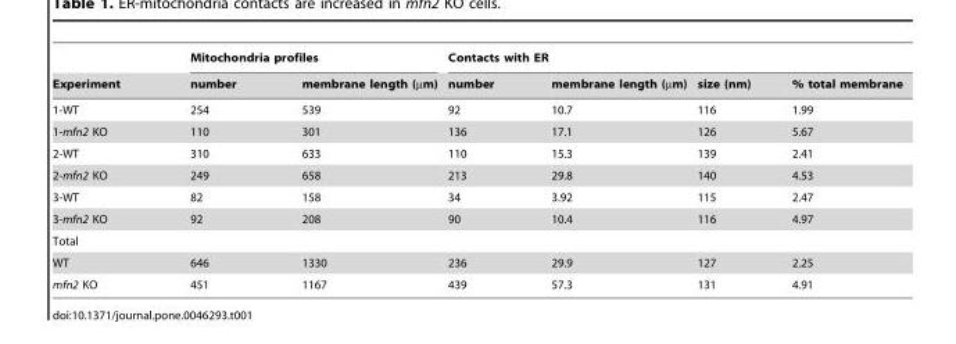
<table><thead><tr><td rowspan="2">Experiment</td><td colspan="2">Mitochondria profiles</td><td colspan="4">Contacts with ER</td></tr><tr><td>number</td><td>membrane length (µm)</td><td>number</td><td>membrane length (µm)</td><td>size (nm)</td><td>% total membrane</td></tr></thead><tbody><tr><td>1-WT</td><td>254</td><td>539</td><td>92</td><td>10.7</td><td>116</td><td>1.99</td></tr><tr><td>1-mfn2 KO</td><td>110</td><td>301</td><td>136</td><td>17.1</td><td>126</td><td>5.67</td></tr><tr><td>2-WT</td><td>310</td><td>633</td><td>110</td><td>15.3</td><td>139</td><td>2.41</td></tr><tr><td>2-mfn2 KO</td><td>249</td><td>658</td><td>213</td><td>29.8</td><td>140</td><td>4.53</td></tr><tr><td>3-WT</td><td>82</td><td>158</td><td>34</td><td>3.92</td><td>115</td><td>2.47</td></tr><tr><td>3-mfn2 KO</td><td>92</td><td>208</td><td>90</td><td>10.4</td><td>116</td><td>4.97</td></tr><tr><td colspan="7">Total</td></tr><tr><td>WT</td><td>646</td><td>1330</td><td>236</td><td>29.9</td><td>127</td><td>2.25</td></tr><tr><td>mfn2 KO</td><td>451</td><td>1167</td><td>439</td><td>57.3</td><td>131</td><td>4.91</td></tr></tbody></table>